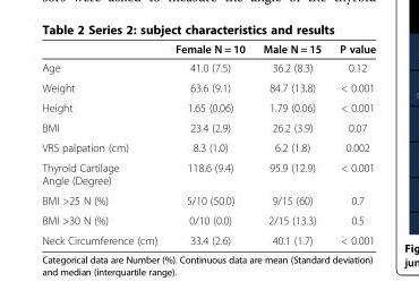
<table><thead><tr><td></td><td>Female N = 10</td><td>Male N = 15</td><td>P value</td></tr></thead><tbody><tr><td>Age</td><td>41.0 (7.5)</td><td>36.2 (8.3)</td><td>0.12</td></tr><tr><td>Weight</td><td>63.6 (9.1)</td><td>84.7 (13.8)</td><td>&lt; 0.001</td></tr><tr><td>Height</td><td>1.65 (0.06)</td><td>1.79 (0.06)</td><td>&lt; 0.001</td></tr><tr><td>BMI</td><td>23.4 (2.9)</td><td>26.2 (3.9)</td><td>0.07</td></tr><tr><td>VRS palpation (cm)</td><td>8.3 (1.0)</td><td>6.2 (1.8)</td><td>0.002</td></tr><tr><td>Thyroid Cartilage Angle (Degree)</td><td>118.6 (9.4)</td><td>95.9 (12.9)</td><td>&lt; 0.001</td></tr><tr><td>BMI &gt;25 N (%)</td><td>5/10 (50.0)</td><td>9/15 (60)</td><td>0.7</td></tr><tr><td>BMI &gt;30 N (%)</td><td>0/10 (0.0)</td><td>2/15 (13.3)</td><td>0.5</td></tr><tr><td>Neck Circumference (cm)</td><td>33.4 (2.6)</td><td>40.1 (1.7)</td><td>&lt; 0.001</td></tr></tbody></table>